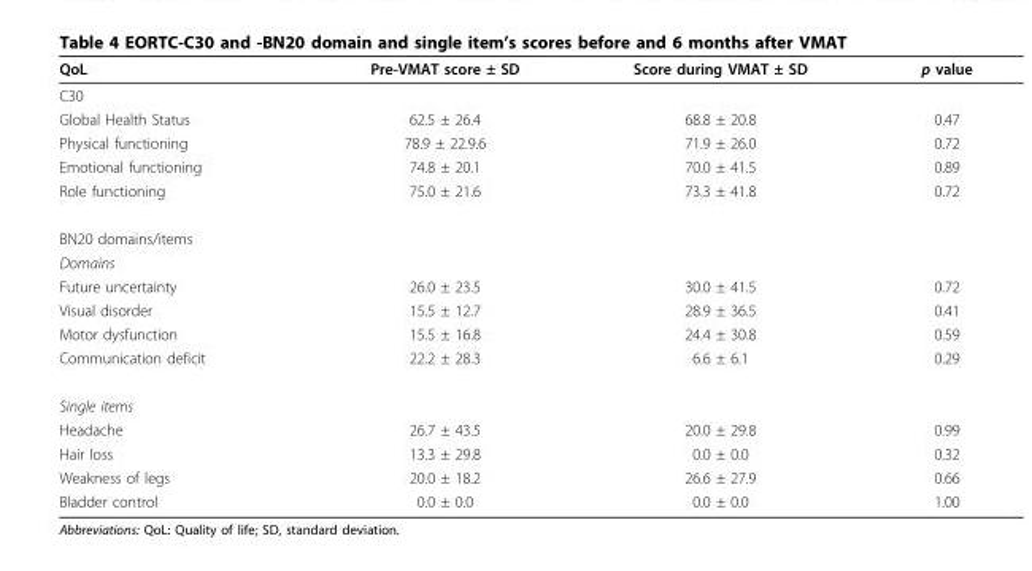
<table><thead><tr><td>QoL</td><td>Pre-VMAT score ± SD</td><td>Score during VMAT ± SD</td><td>p value</td></tr></thead><tbody><tr><td colspan="4">C30</td></tr><tr><td>Global Health Status</td><td>62.5 ± 26.4</td><td>68.8 ± 20.8</td><td>0.47</td></tr><tr><td>Physical functioning</td><td>78.9 ± 22.9.6</td><td>71.9 ± 26.0</td><td>0.72</td></tr><tr><td>Emotional functioning</td><td>74.8 ± 20.1</td><td>70.0 ± 41.5</td><td>0.89</td></tr><tr><td>Role functioning</td><td>75.0 ± 21.6</td><td>73.3 ± 41.8</td><td>0.72</td></tr><tr><td colspan="4">BN20 domains/items</td></tr><tr><td colspan="4">Domains</td></tr><tr><td>Future uncertainty</td><td>26.0 ± 23.5</td><td>30.0 ± 41.5</td><td>0.72</td></tr><tr><td>Visual disorder</td><td>15.5 ± 12.7</td><td>28.9 ± 36.5</td><td>0.41</td></tr><tr><td>Motor dysfunction</td><td>15.5 ± 16.8</td><td>24.4 ± 30.8</td><td>0.59</td></tr><tr><td>Communication deficit</td><td>22.2 ± 28.3</td><td>6.6 ± 6.1</td><td>0.29</td></tr><tr><td colspan="4">Single items</td></tr><tr><td>Headache</td><td>26.7 ± 43.5</td><td>20.0 ± 29.8</td><td>0.99</td></tr><tr><td>Hair loss</td><td>13.3 ± 29.8</td><td>0.0 ± 0.0</td><td>0.32</td></tr><tr><td>Weakness of legs</td><td>20.0 ± 18.2</td><td>26.6 ± 27.9</td><td>0.66</td></tr><tr><td>Bladder control</td><td>0.0 ± 0.0</td><td>0.0 ± 0.0</td><td>1.00</td></tr></tbody></table>